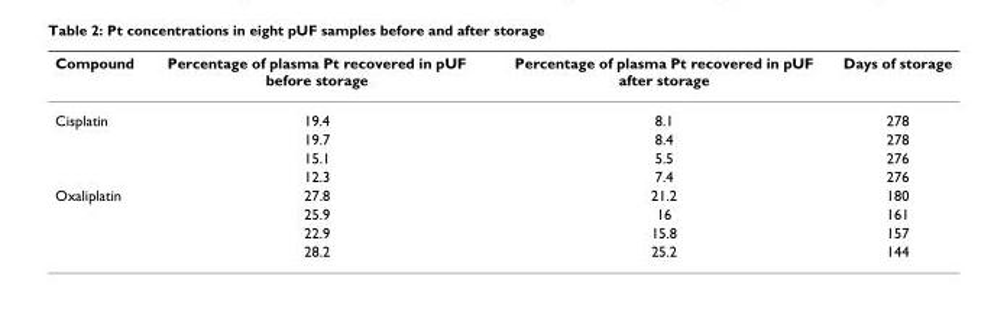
<table><thead><tr><td>Compound</td><td>Percentage of plasma Pt recovered in pUF before storage</td><td>Percentage of plasma Pt recovered in pUF after storage</td><td>Days of storage</td></tr></thead><tbody><tr><td rowspan="4">Cisplatin</td><td>19.4</td><td>8.1</td><td>278</td></tr><tr><td>19.7</td><td>8.4</td><td>278</td></tr><tr><td>15.1</td><td>5.5</td><td>276</td></tr><tr><td>12.3</td><td>7.4</td><td>276</td></tr><tr><td rowspan="4">Oxaliplatin</td><td>27.8</td><td>21.2</td><td>180</td></tr><tr><td>25.9</td><td>16</td><td>161</td></tr><tr><td>22.9</td><td>15.8</td><td>157</td></tr><tr><td>28.2</td><td>25.2</td><td>144</td></tr></tbody></table>